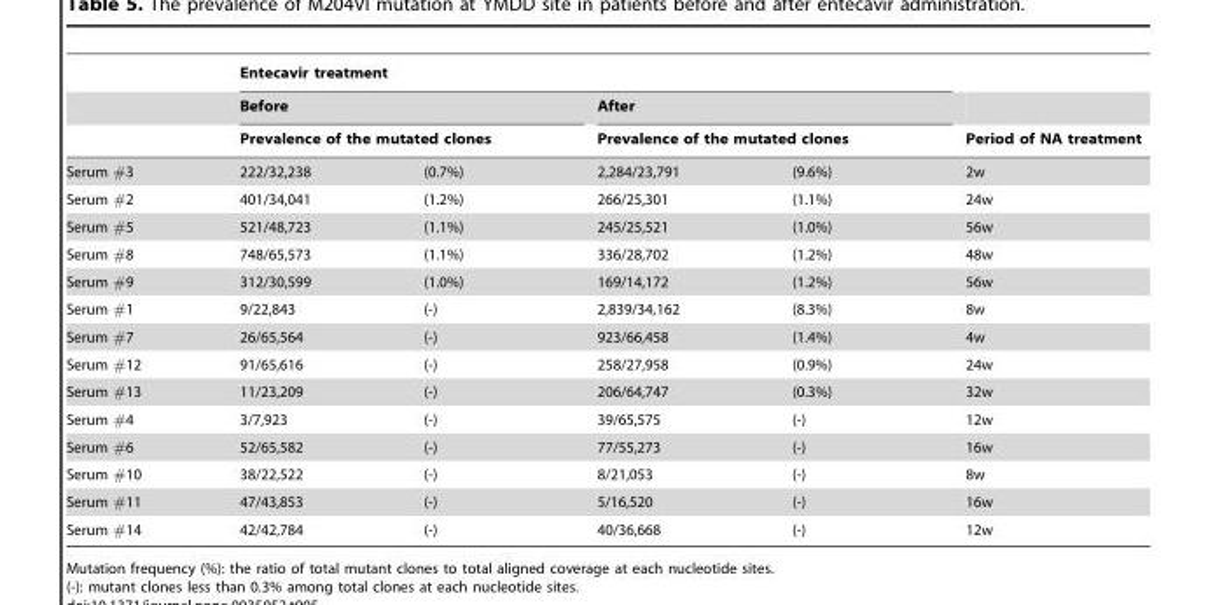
<table><thead><tr><td rowspan="4">Serum #3</td><td colspan="4">Entecavir treatment</td><td rowspan="4">Period of NA treatment 2w</td></tr><tr><td rowspan="2" colspan="2">Before Prevalence of the mutated clones</td><td rowspan="2" colspan="2">After Prevalence of the mutated clones</td></tr><tr></tr><tr><td>222/32,238</td><td>(0.7%)</td><td>2,284/23,791</td><td>(9.6%)</td></tr></thead><tbody><tr><td>Serum #2</td><td>401/34,041</td><td>(1.2%)</td><td>266/25,301</td><td>(1.1%)</td><td>24w</td></tr><tr><td>Serum #5</td><td>521/48,723</td><td>(1.1%)</td><td>245/25,521</td><td>(1.0%)</td><td>56w</td></tr><tr><td>Serum #8</td><td>748/65,573</td><td>(1.1%)</td><td>336/28,702</td><td>(1.2%)</td><td>48w</td></tr><tr><td>Serum #9</td><td>312/30,599</td><td>(1.0%)</td><td>169/14,172</td><td>(1.2%)</td><td>56w</td></tr><tr><td>Serum #1</td><td>9/22,843</td><td>(-)</td><td>2,839/34,162</td><td>(8.3%)</td><td>8w</td></tr><tr><td>Serum #7</td><td>26/65,564</td><td>(-)</td><td>923/66,458</td><td>(1.4%)</td><td>4w</td></tr><tr><td>Serum #12</td><td>91/65,616</td><td>(-)</td><td>258/27,958</td><td>(0.9%)</td><td>24w</td></tr><tr><td>Serum #13</td><td>11/23,209</td><td>(-)</td><td>206/64,747</td><td>(0.3%)</td><td>32w</td></tr><tr><td>Serum #4</td><td>3/7,923</td><td>(-)</td><td>39/65,575</td><td>(-)</td><td>12w</td></tr><tr><td>Serum #6</td><td>52/65,582</td><td>(-)</td><td>77/55,273</td><td>(-)</td><td>16w</td></tr><tr><td>Serum #10</td><td>38/22,522</td><td>(-)</td><td>8/21,053</td><td>(-)</td><td>8w</td></tr><tr><td>Serum #11</td><td>47/43,853</td><td>(-)</td><td>5/16,520</td><td>(-)</td><td>16w</td></tr><tr><td>Serum #14</td><td>42/42,784</td><td>(-)</td><td>40/36,668</td><td>(-)</td><td>12w</td></tr></tbody></table>